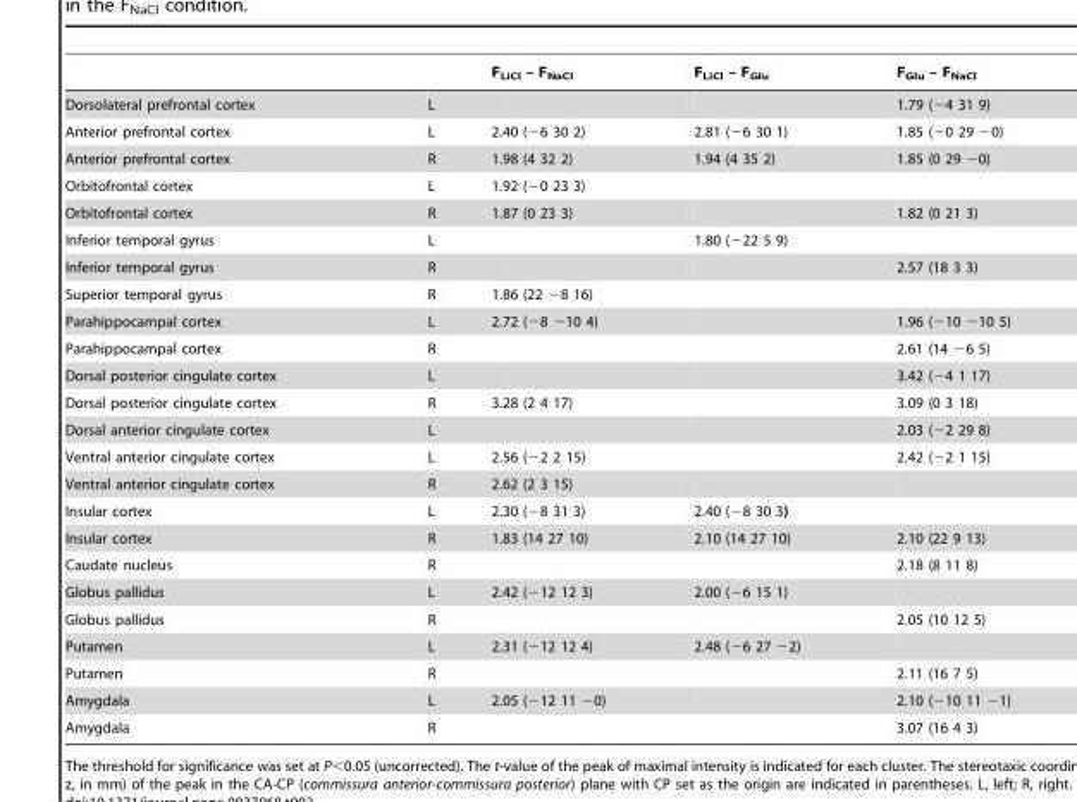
<table><thead><tr><td></td><td></td><td>F<sub>LiCl</sub> – F<sub>NaCl</sub></td><td>F<sub>LiCl</sub> – F<sub>Glu</sub></td><td>F<sub>Glu</sub> – F<sub>NaCl</sub></td></tr></thead><tbody><tr><td>Dorsolateral prefrontal cortex</td><td>L</td><td></td><td></td><td>1.79 (−4 31 9)</td></tr><tr><td>Anterior prefrontal cortex</td><td>L</td><td>2.40 (−6 30 2)</td><td>2.81 (−6 30 1)</td><td>1.85 (−0 29 −0)</td></tr><tr><td>Anterior prefrontal cortex</td><td>R</td><td>1.98 (4 32 2)</td><td>1.94 (4 35 2)</td><td>1.85 (0 29 −0)</td></tr><tr><td>Orbitofrontal cortex</td><td>L</td><td>1.92 (−0 23 3)</td><td></td><td></td></tr><tr><td>Orbitofrontal cortex</td><td>R</td><td>1.87 (0 23 3)</td><td></td><td>1.82 (0 21 3)</td></tr><tr><td>Inferior temporal gyrus</td><td>L</td><td></td><td>1.80 (−22 5 9)</td><td></td></tr><tr><td>Inferior temporal gyrus</td><td>R</td><td></td><td></td><td>2.57 (18 3 3)</td></tr><tr><td>Superior temporal gyrus</td><td>R</td><td>1.86 (22 −8 16)</td><td></td><td></td></tr><tr><td>Parahippocampal cortex</td><td>L</td><td>2.72 (−8 −10 4)</td><td></td><td>1.96 (−10 −10 5)</td></tr><tr><td>Parahippocampal cortex</td><td>R</td><td></td><td></td><td>2.61 (14 −6 5)</td></tr><tr><td>Dorsal posterior cingulate cortex</td><td>L</td><td></td><td></td><td>3.42 (−4 1 17)</td></tr><tr><td>Dorsal posterior cingulate cortex</td><td>R</td><td>3.28 (2 4 17)</td><td></td><td>3.09 (0 3 18)</td></tr><tr><td>Dorsal anterior cingulate cortex</td><td>L</td><td></td><td></td><td>2.03 (−2 29 8)</td></tr><tr><td>Ventral anterior cingulate cortex</td><td>L</td><td>2.56 (−2 2 15)</td><td></td><td>2.42 (−2 1 15)</td></tr><tr><td>Ventral anterior cingulate cortex</td><td>R</td><td>2.62 (2 3 15)</td><td></td><td></td></tr><tr><td>Insular cortex</td><td>L</td><td>2.30 (−8 31 3)</td><td>2.40 (−8 30 3)</td><td></td></tr><tr><td>Insular cortex</td><td>R</td><td>1.83 (14 27 10)</td><td>2.10 (14 27 10)</td><td>2.10 (22 9 13)</td></tr><tr><td>Caudate nucleus</td><td>R</td><td></td><td></td><td>2.18 (8 11 8)</td></tr><tr><td>Globus pallidus</td><td>L</td><td>2.42 (−12 12 3)</td><td>2.00 (−6 15 1)</td><td></td></tr><tr><td>Globus pallidus</td><td>R</td><td></td><td></td><td>2.05 (10 12 5)</td></tr><tr><td>Putamen</td><td>L</td><td>2.31 (−12 12 4)</td><td>2.48 (−6 27 −2)</td><td></td></tr><tr><td>Putamen</td><td>R</td><td></td><td></td><td>2.11 (16 7 5)</td></tr><tr><td>Amygdala</td><td>L</td><td>2.05 (−12 11 −0)</td><td></td><td>2.10 (−10 11 −1)</td></tr><tr><td>Amygdala</td><td>R</td><td></td><td></td><td>3.07 (16 4 3)</td></tr></tbody></table>